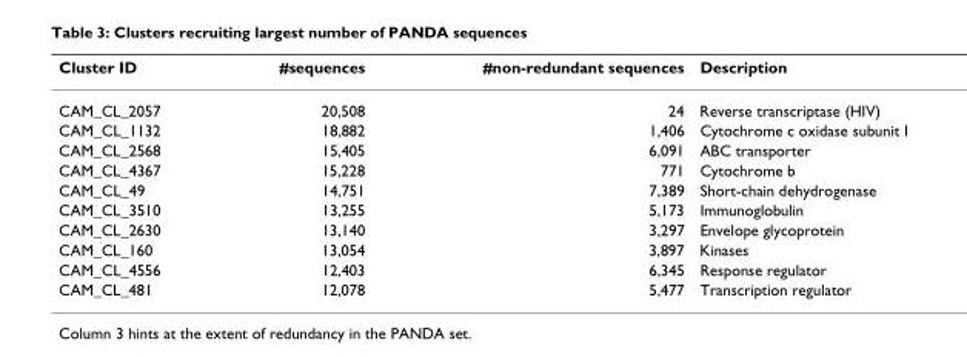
<table><thead><tr><td>Cluster ID</td><td>#sequences</td><td>#non-redundant sequences</td><td>Description</td></tr></thead><tbody><tr><td>CAM_CL_2057</td><td>20,508</td><td>24</td><td>Reverse transcriptase (HIV)</td></tr><tr><td>CAM_CL_1132</td><td>18,882</td><td>1,406</td><td>Cytochrome c oxidase subunit I</td></tr><tr><td>CAM_CL_2568</td><td>15,405</td><td>6,091</td><td>ABC transporter</td></tr><tr><td>CAM_CL_4367</td><td>15,228</td><td>771</td><td>Cytochrome b</td></tr><tr><td>CAM_CL_49</td><td>14,751</td><td>7,389</td><td>Short-chain dehydrogenase</td></tr><tr><td>CAM_CL_3510</td><td>13,255</td><td>5,173</td><td>Immunoglobulin</td></tr><tr><td>CAM_CL_2630</td><td>13,140</td><td>3,297</td><td>Envelope glycoprotein</td></tr><tr><td>CAM_CL_160</td><td>13,054</td><td>3,897</td><td>Kinases</td></tr><tr><td>CAM_CL_4556</td><td>12,403</td><td>6,345</td><td>Response regulator</td></tr><tr><td>CAM_CL_481</td><td>12,078</td><td>5,477</td><td>Transcription regulator</td></tr></tbody></table>